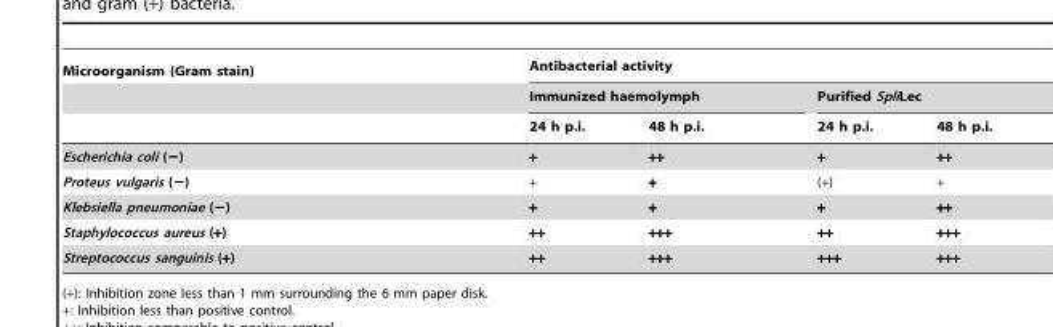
<table><thead><tr><td rowspan="3">Microorganism (Gram stain)</td><td colspan="4">Antibacterial activity</td></tr><tr><td colspan="2">Immunized haemolymph</td><td colspan="2">Purified SpliLec</td></tr><tr><td>24 h p.i.</td><td>48 h p.i.</td><td>24 h p.i.</td><td>48 h p.i.</td></tr></thead><tbody><tr><td>Escherichia coli (−)</td><td>+</td><td>++</td><td>+</td><td>++</td></tr><tr><td>Proteus vulgaris (−)</td><td>+</td><td>++</td><td>(+)</td><td>+</td></tr><tr><td>Klebsiella pneumoniae (−)</td><td>+</td><td>+</td><td>+</td><td>++</td></tr><tr><td>Staphylococcus aureus (+)</td><td>++</td><td>+++</td><td>++</td><td>+++</td></tr><tr><td>Streptococcus sanguinis (+)</td><td>++</td><td>+++</td><td>+++</td><td>+++</td></tr></tbody></table>